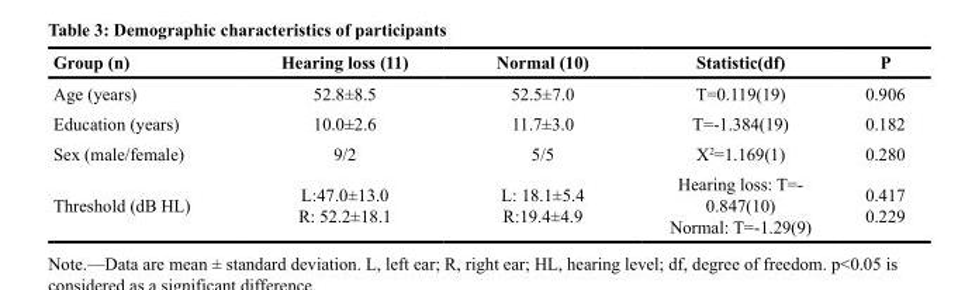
<table><thead><tr><td>Group (n)</td><td>Hearing loss (11)</td><td>Normal (10)</td><td>Statistic(df)</td><td>P</td></tr></thead><tbody><tr><td>Age (years)</td><td>52.8±8.5</td><td>52.5±7.0</td><td>T=0.119(19)</td><td>0.906</td></tr><tr><td>Education (years)</td><td>10.0±2.6</td><td>11.7±3.0</td><td>T=-1.384(19)</td><td>0.182</td></tr><tr><td>Sex (male/female)</td><td>9/2</td><td>5/5</td><td>X<sup>2</sup>=1.169(1)</td><td>0.280</td></tr><tr><td>Threshold (dB HL)</td><td>L:47.0±13.0 R: 52.2±18.1</td><td>L: 18.1±5.4 R:19.4±4.9</td><td>Hearing loss: T=- 0.847(10) Normal: T=-1.29(9)</td><td>0.417 0.229</td></tr></tbody></table>